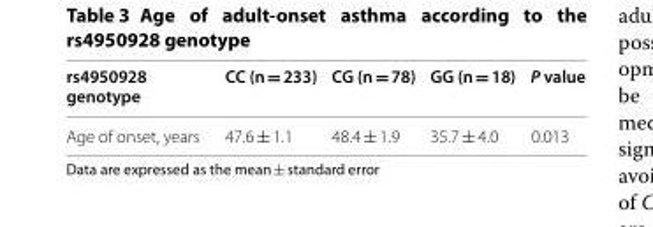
<table><thead><tr><td>rs4950928 genotype</td><td>CC (n = 233)</td><td>CG (n = 78)</td><td>GG (n = 18)</td><td>P value</td></tr></thead><tbody><tr><td>Age of onset, years</td><td>47.6 ± 1.1</td><td>48.4 ± 1.9</td><td>35.7 ± 4.0</td><td>0.013</td></tr></tbody></table>